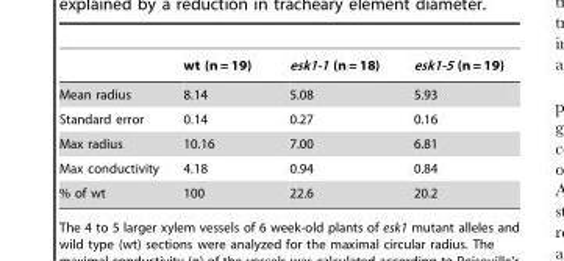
<table><thead><tr><td></td><td>wt (n = 19)</td><td>esk1-1 (n = 18)</td><td>esk1-5 (n = 19)</td></tr></thead><tbody><tr><td>Mean radius</td><td>8.14</td><td>5.08</td><td>5.93</td></tr><tr><td>Standard error</td><td>0.14</td><td>0.27</td><td>0.16</td></tr><tr><td>Max radius</td><td>10.16</td><td>7.00</td><td>6.81</td></tr><tr><td>Max conductivity</td><td>4.18</td><td>0.94</td><td>0.84</td></tr><tr><td>% of wt</td><td>100</td><td>22.6</td><td>20.2</td></tr></tbody></table>